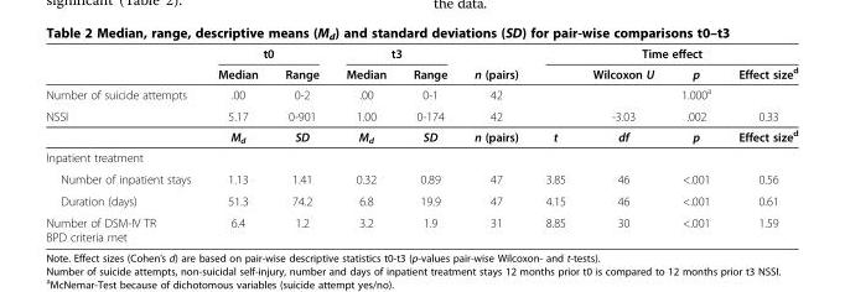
<table><thead><tr><td rowspan="2"></td><td colspan="2">t0</td><td colspan="2">t3</td><td rowspan="2">n (pairs)</td><td colspan="4">Time effect</td></tr><tr><td>Median</td><td>Range</td><td>Median</td><td>Range</td><td></td><td>Wilcoxon U</td><td>p</td><td>Effect size<sup>d</sup></td></tr></thead><tbody><tr><td>Number of suicide attempts</td><td>.00</td><td>0-2</td><td>.00</td><td>0-1</td><td>42</td><td></td><td></td><td>1.000<sup>a</sup></td><td></td></tr><tr><td rowspan="2">NSSI</td><td>5.17</td><td>0-901</td><td>1.00</td><td>0-174</td><td>42</td><td></td><td>-3.03</td><td>.002</td><td>0.33</td></tr><tr><td>M<sub>d</sub></td><td>SD</td><td>M<sub>d</sub></td><td>SD</td><td>n (pairs)</td><td>t</td><td>df</td><td>p</td><td>Effect size<sup>d</sup></td></tr><tr><td colspan="10">Inpatient treatment</td></tr><tr><td>Number of inpatient stays</td><td>1.13</td><td>1.41</td><td>0.32</td><td>0.89</td><td>47</td><td>3.85</td><td>46</td><td>&lt;.001</td><td>0.56</td></tr><tr><td>Duration (days)</td><td>51.3</td><td>74.2</td><td>6.8</td><td>19.9</td><td>47</td><td>4.15</td><td>46</td><td>&lt;.001</td><td>0.61</td></tr><tr><td>Number of DSM-IV TR BPD criteria met</td><td>6.4</td><td>1.2</td><td>3.2</td><td>1.9</td><td>31</td><td>8.85</td><td>30</td><td>&lt;.001</td><td>1.59</td></tr></tbody></table>